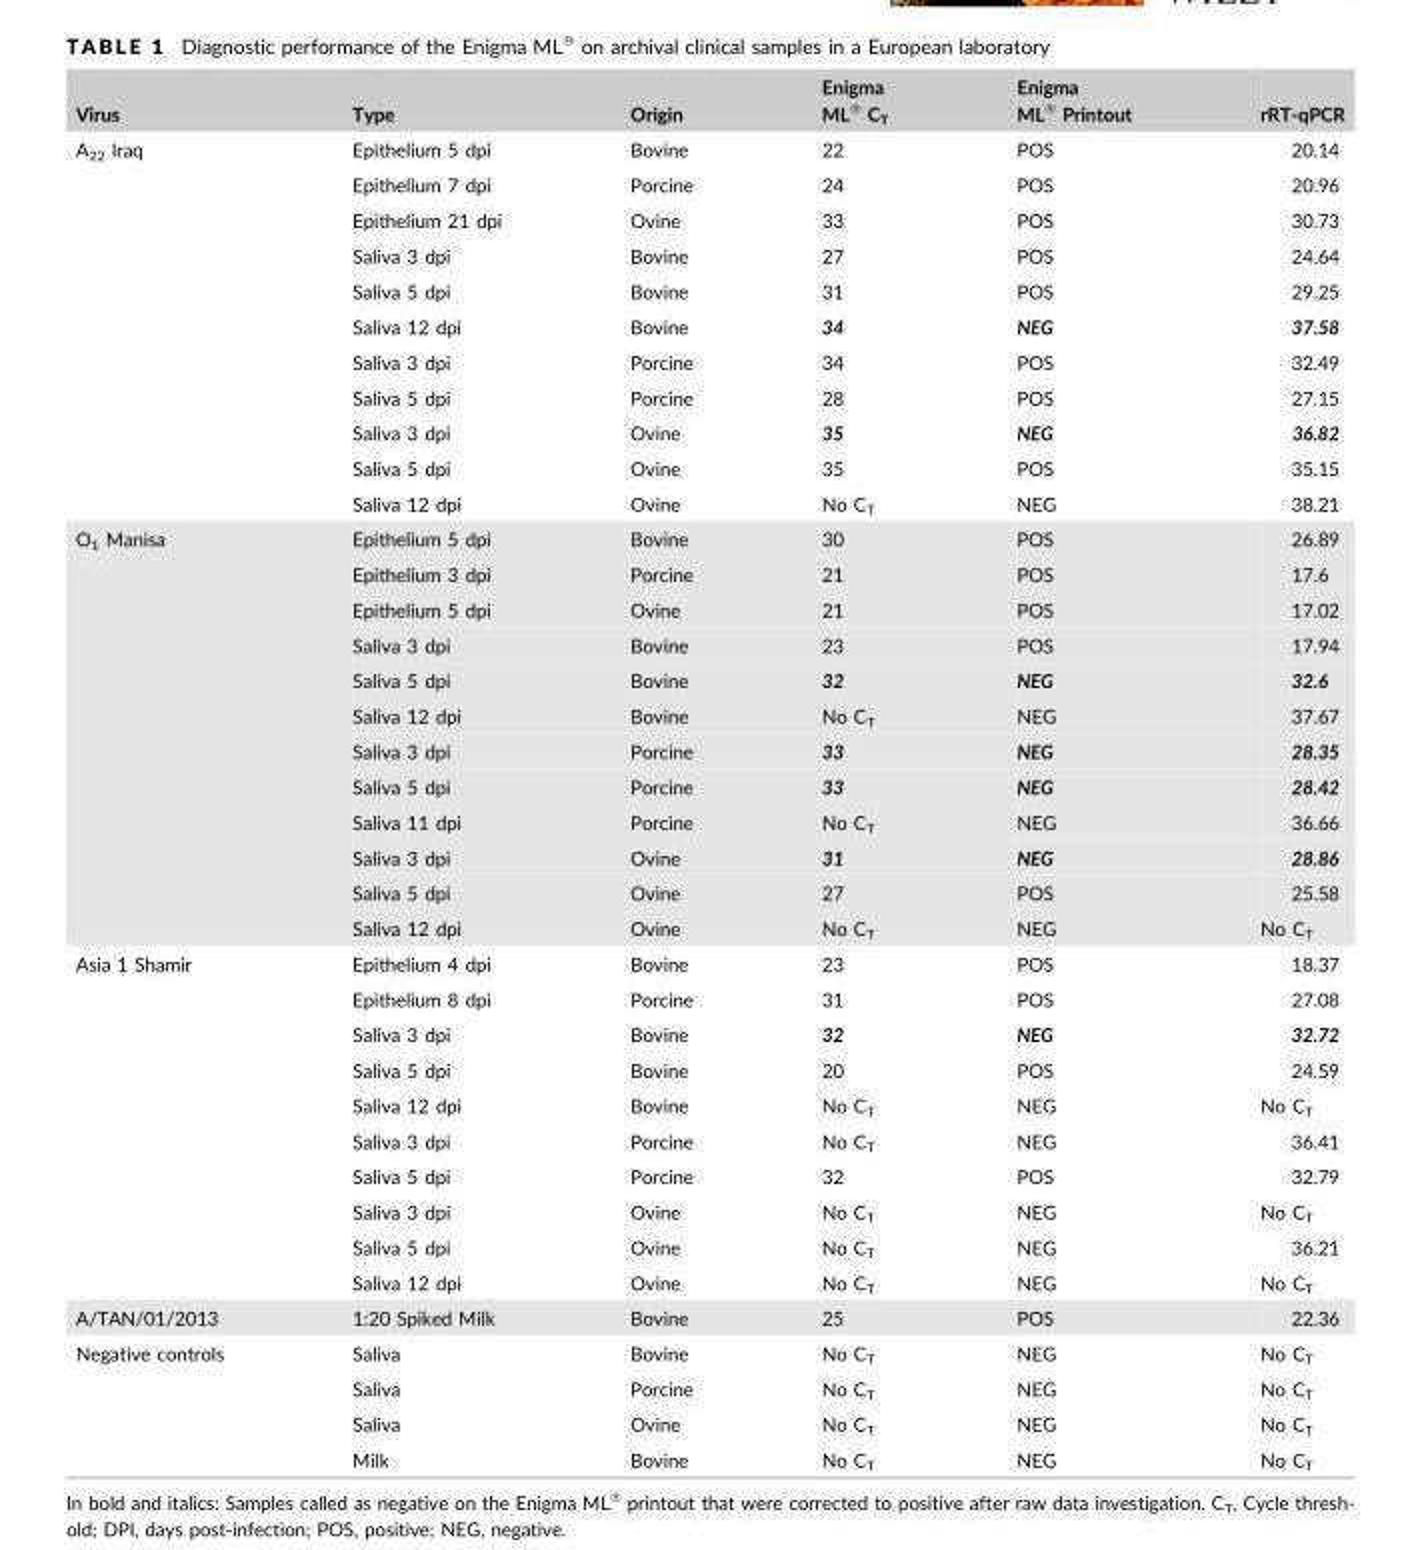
<table><thead><tr><td>Virus</td><td>Type</td><td>Origin</td><td>Enigma ML<sup>®</sup> C<sub>T</sub></td><td>Enigma ML<sup>®</sup> Printout</td><td>rRT-qPCR</td></tr></thead><tbody><tr><td rowspan="11">A<sub>22</sub> Iraq</td><td>Epithelium 5 dpi</td><td>Bovine</td><td>22</td><td>POS</td><td>20.14</td></tr><tr><td>Epithelium 7 dpi</td><td>Porcine</td><td>24</td><td>POS</td><td>20.96</td></tr><tr><td>Epithelium 21 dpi</td><td>Ovine</td><td>33</td><td>POS</td><td>30.73</td></tr><tr><td>Saliva 3 dpi</td><td>Bovine</td><td>27</td><td>POS</td><td>24.64</td></tr><tr><td>Saliva 5 dpi</td><td>Bovine</td><td>31</td><td>POS</td><td>29.25</td></tr><tr><td>Saliva 12 dpi</td><td>Bovine</td><td>34</td><td>NEG</td><td>37.58</td></tr><tr><td>Saliva 3 dpi</td><td>Porcine</td><td>34</td><td>POS</td><td>32.49</td></tr><tr><td>Saliva 5 dpi</td><td>Porcine</td><td>28</td><td>POS</td><td>27.15</td></tr><tr><td>Saliva 3 dpi</td><td>Ovine</td><td>35</td><td>NEG</td><td>36.82</td></tr><tr><td>Saliva 5 dpi</td><td>Ovine</td><td>35</td><td>POS</td><td>35.15</td></tr><tr><td>Saliva 12 dpi</td><td>Ovine</td><td>No C<sub>T</sub></td><td>NEG</td><td>38.21</td></tr><tr><td rowspan="12">O<sub>1</sub> Manisa</td><td>Epithelium 5 dpi</td><td>Bovine</td><td>30</td><td>POS</td><td>26.89</td></tr><tr><td>Epithelium 3 dpi</td><td>Porcine</td><td>21</td><td>POS</td><td>17.6</td></tr><tr><td>Epithelium 5 dpi</td><td>Ovine</td><td>21</td><td>POS</td><td>17.02</td></tr><tr><td>Saliva 3 dpi</td><td>Bovine</td><td>23</td><td>POS</td><td>17.94</td></tr><tr><td>Saliva 5 dpi</td><td>Bovine</td><td>32</td><td>NEG</td><td>32.6</td></tr><tr><td>Saliva 12 dpi</td><td>Bovine</td><td>No C<sub>T</sub></td><td>NEG</td><td>37.67</td></tr><tr><td>Saliva 3 dpi</td><td>Porcine</td><td>33</td><td>NEG</td><td>28.35</td></tr><tr><td>Saliva 5 dpi</td><td>Porcine</td><td>33</td><td>NEG</td><td>28.42</td></tr><tr><td>Saliva 11 dpi</td><td>Porcine</td><td>No C<sub>T</sub></td><td>NEG</td><td>36.66</td></tr><tr><td>Saliva 3 dpi</td><td>Ovine</td><td>31</td><td>NEG</td><td>28.86</td></tr><tr><td>Saliva 5 dpi</td><td>Ovine</td><td>27</td><td>POS</td><td>25.58</td></tr><tr><td>Saliva 12 dpi</td><td>Ovine</td><td>No C<sub>T</sub></td><td>NEG</td><td>No C<sub>T</sub></td></tr><tr><td rowspan="10">Asia 1 Shamir</td><td>Epithelium 4 dpi</td><td>Bovine</td><td>23</td><td>POS</td><td>18.37</td></tr><tr><td>Epithelium 8 dpi</td><td>Porcine</td><td>31</td><td>POS</td><td>27.08</td></tr><tr><td>Saliva 3 dpi</td><td>Bovine</td><td>32</td><td>NEG</td><td>32.72</td></tr><tr><td>Saliva 5 dpi</td><td>Bovine</td><td>20</td><td>POS</td><td>24.59</td></tr><tr><td>Saliva 12 dpi</td><td>Bovine</td><td>No C<sub>T</sub></td><td>NEG</td><td>No C<sub>T</sub></td></tr><tr><td>Saliva 3 dpi</td><td>Porcine</td><td>No C<sub>T</sub></td><td>NEG</td><td>36.41</td></tr><tr><td>Saliva 5 dpi</td><td>Porcine</td><td>32</td><td>POS</td><td>32.79</td></tr><tr><td>Saliva 3 dpi</td><td>Ovine</td><td>No C<sub>T</sub></td><td>NEG</td><td>No C<sub>T</sub></td></tr><tr><td>Saliva 5 dpi</td><td>Ovine</td><td>No C<sub>T</sub></td><td>NEG</td><td>36.21</td></tr><tr><td>Saliva 12 dpi</td><td>Ovine</td><td>No C<sub>T</sub></td><td>NEG</td><td>No C<sub>T</sub></td></tr><tr><td>A/TAN/01/2013</td><td>1:20 Spiked Milk</td><td>Bovine</td><td>25</td><td>POS</td><td>22.36</td></tr><tr><td rowspan="4">Negative controls</td><td>Saliva</td><td>Bovine</td><td>No C<sub>T</sub></td><td>NEG</td><td>No C<sub>T</sub></td></tr><tr><td>Saliva</td><td>Porcine</td><td>No C<sub>T</sub></td><td>NEG</td><td>No C<sub>T</sub></td></tr><tr><td>Saliva</td><td>Ovine</td><td>No C<sub>T</sub></td><td>NEG</td><td>No C<sub>T</sub></td></tr><tr><td>Milk</td><td>Bovine</td><td>No C<sub>T</sub></td><td>NEG</td><td>No C<sub>T</sub></td></tr></tbody></table>